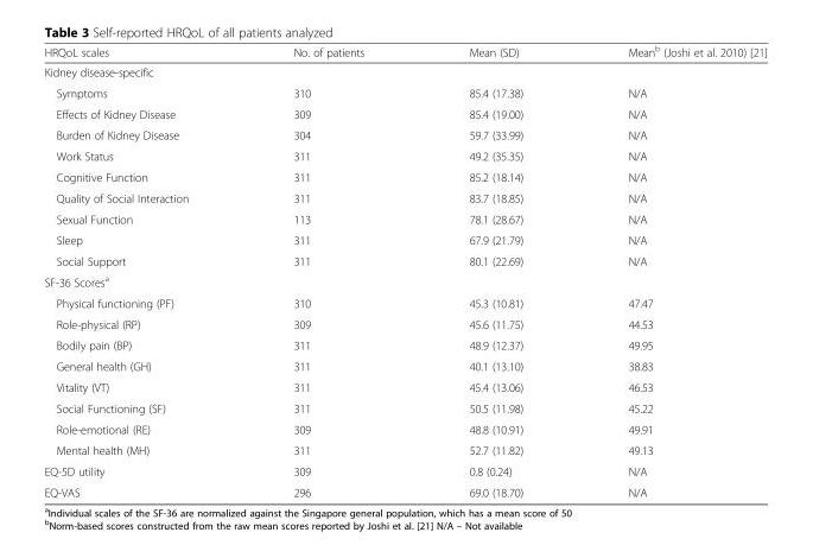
<table><thead><tr><td>HRQoL scales</td><td>No. of patients</td><td>Mean (SD)</td><td>Mean<sup>b</sup> (Joshi et al. 2010) [21]</td></tr></thead><tbody><tr><td colspan="4">Kidney disease-specific</td></tr><tr><td>Symptoms</td><td>310</td><td>85.4 (17.38)</td><td>N/A</td></tr><tr><td>Effects of Kidney Disease</td><td>309</td><td>85.4 (19.00)</td><td>N/A</td></tr><tr><td>Burden of Kidney Disease</td><td>304</td><td>59.7 (33.99)</td><td>N/A</td></tr><tr><td>Work Status</td><td>311</td><td>49.2 (35.35)</td><td>N/A</td></tr><tr><td>Cognitive Function</td><td>311</td><td>85.2 (18.14)</td><td>N/A</td></tr><tr><td>Quality of Social Interaction</td><td>311</td><td>83.7 (18.85)</td><td>N/A</td></tr><tr><td>Sexual Function</td><td>113</td><td>78.1 (28.67)</td><td>N/A</td></tr><tr><td>Sleep</td><td>311</td><td>67.9 (21.79)</td><td>N/A</td></tr><tr><td>Social Support</td><td>311</td><td>80.1 (22.69)</td><td>N/A</td></tr><tr><td colspan="4">SF-36 Scores<sup>a</sup></td></tr><tr><td>Physical functioning (PF)</td><td>310</td><td>45.3 (10.81)</td><td>47.47</td></tr><tr><td>Role-physical (RP)</td><td>309</td><td>45.6 (11.75)</td><td>44.53</td></tr><tr><td>Bodily pain (BP)</td><td>311</td><td>48.9 (12.37)</td><td>49.95</td></tr><tr><td>General health (GH)</td><td>311</td><td>40.1 (13.10)</td><td>38.83</td></tr><tr><td>Vitality (VT)</td><td>311</td><td>45.4 (13.06)</td><td>46.53</td></tr><tr><td>Social Functioning (SF)</td><td>311</td><td>50.5 (11.98)</td><td>45.22</td></tr><tr><td>Role-emotional (RE)</td><td>309</td><td>48.8 (10.91)</td><td>49.91</td></tr><tr><td>Mental health (MH)</td><td>311</td><td>52.7 (11.82)</td><td>49.13</td></tr><tr><td>EQ-5D utility</td><td>309</td><td>0.8 (0.24)</td><td>N/A</td></tr><tr><td>EQ-VAS</td><td>296</td><td>69.0 (18.70)</td><td>N/A</td></tr></tbody></table>